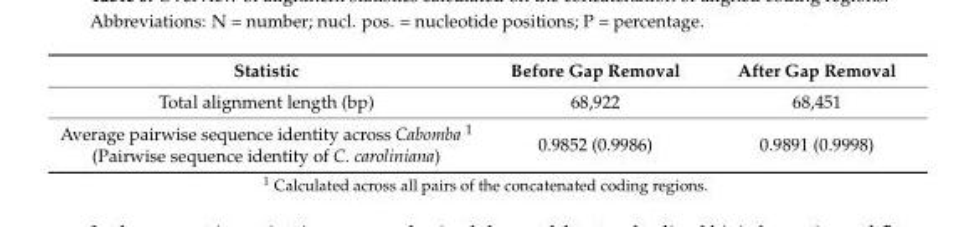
<table><thead><tr><td>Statistic</td><td>Before Gap Removal</td><td>After Gap Removal</td></tr></thead><tbody><tr><td>Total alignment length (bp)</td><td>68,922</td><td>68,451</td></tr><tr><td>Average pairwise sequence identity across Cabomba <sup>1</sup> (Pairwise sequence identity of C. caroliniana)</td><td>0.9852 (0.9986)</td><td>0.9891 (0.9998)</td></tr></tbody></table>